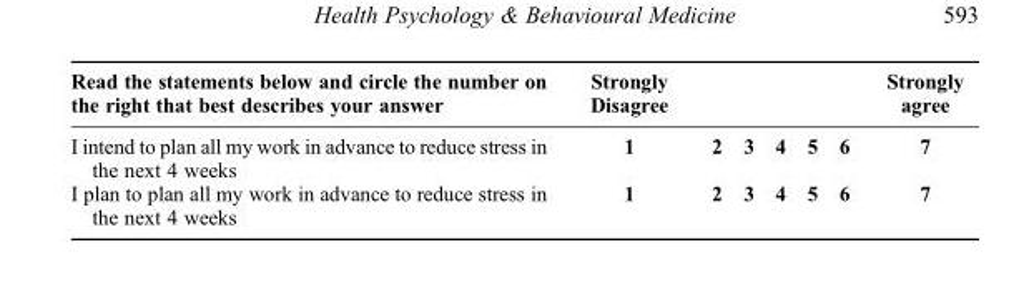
<table><thead><tr><td>Read the statements below and circle the number on the right that best describes your answer</td><td>Strongly Disagree</td><td></td><td></td><td></td><td></td><td></td><td>Strongly agree</td></tr></thead><tbody><tr><td>I intend to plan all my work in advance to reduce stress in the next 4 weeks</td><td>1</td><td>2</td><td>3</td><td>4</td><td>5</td><td>6</td><td>7</td></tr><tr><td>I plan to plan all my work in advance to reduce stress in the next 4 weeks</td><td>1</td><td>2</td><td>3</td><td>4</td><td>5</td><td>6</td><td>7</td></tr></tbody></table>